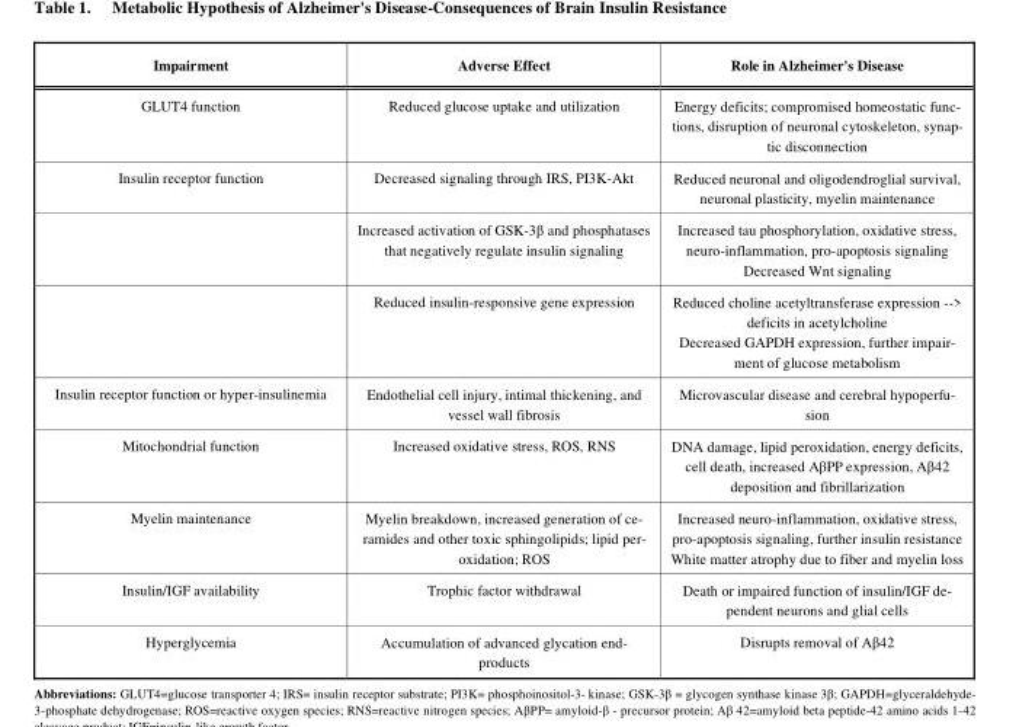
<table><thead><tr><td>Impairment</td><td>Adverse Effect</td><td>Role in Alzheimer&#x27;s Disease</td></tr></thead><tbody><tr><td>GLUT4 function</td><td>Reduced glucose uptake and utilization</td><td>Energy deficits; compromised homeostatic func- tions, disruption of neuronal cytoskeleton, synap- tic disconnection</td></tr><tr><td rowspan="3">Insulin receptor function</td><td>Decreased signaling through IRS, PI3K-Akt</td><td>Reduced neuronal and oligodendroglial survival, neuronal plasticity, myelin maintenance</td></tr><tr><td>Increased activation of GSK-3β and phosphatases that negatively regulate insulin signaling</td><td>Increased tau phosphorylation, oxidative stress, neuro-inflammation, pro-apoptosis signaling Decreased Wnt signaling</td></tr><tr><td>Reduced insulin-responsive gene expression</td><td>Reduced choline acetyltransferase expression --&gt; deficits in acetylcholine Decreased GAPDH expression, further impair- ment of glucose metabolism</td></tr><tr><td>Insulin receptor function or hyper-insulinemia</td><td>Endothelial cell injury, intimal thickening, and vessel wall fibrosis</td><td>Microvascular disease and cerebral hypoperfu- sion</td></tr><tr><td>Mitochondrial function</td><td>Increased oxidative stress, ROS, RNS</td><td>DNA damage, lipid peroxidation, energy deficits, cell death, increased AβPP expression, Aβ42 deposition and fibrillarization</td></tr><tr><td>Myelin maintenance</td><td>Myelin breakdown, increased generation of ce- ramides and other toxic sphingolipids; lipid per- oxidation; ROS</td><td>Increased neuro-inflammation, oxidative stress, pro-apoptosis signaling, further insulin resistance White matter atrophy due to fiber and myelin loss</td></tr><tr><td>Insulin/IGF availability</td><td>Trophic factor withdrawal</td><td>Death or impaired function of insulin/IGF de- pendent neurons and glial cells</td></tr><tr><td>Hyperglycemia</td><td>Accumulation of advanced glycation end- products</td><td>Disrupts removal of Aβ42</td></tr></tbody></table>